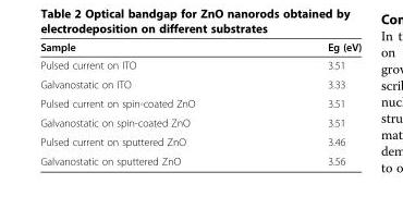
<table><thead><tr><td>Sample</td><td>Eg (eV)</td></tr></thead><tbody><tr><td>Pulsed current on ITO</td><td>3.51</td></tr><tr><td>Galvanostatic on ITO</td><td>3.33</td></tr><tr><td>Pulsed current on spin-coated ZnO</td><td>3.51</td></tr><tr><td>Galvanostatic on spin-coated ZnO</td><td>3.51</td></tr><tr><td>Pulsed current on sputtered ZnO</td><td>3.46</td></tr><tr><td>Galvanostatic on sputtered ZnO</td><td>3.56</td></tr></tbody></table>